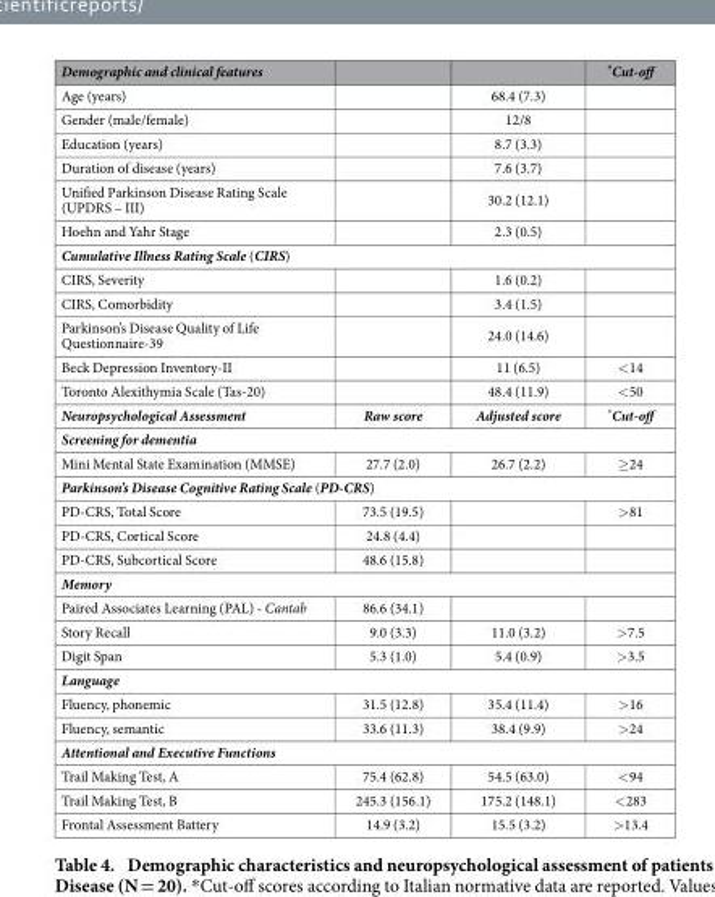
<table><thead><tr><td>Demographic and clinical features</td><td></td><td></td><td>*Cut-off</td></tr></thead><tbody><tr><td>Age (years)</td><td></td><td>68.4 (7.3)</td><td></td></tr><tr><td>Gender (male/female)</td><td></td><td>12/8</td><td></td></tr><tr><td>Education (years)</td><td></td><td>8.7 (3.3)</td><td></td></tr><tr><td>Duration of disease (years)</td><td></td><td>7.6 (3.7)</td><td></td></tr><tr><td>Unified Parkinson Disease Rating Scale (UPDRS – III)</td><td></td><td>30.2 (12.1)</td><td></td></tr><tr><td>Hoehn and Yahr Stage</td><td></td><td>2.3 (0.5)</td><td></td></tr><tr><td colspan="4">Cumulative Illness Rating Scale (CIRS)</td></tr><tr><td>CIRS, Severity</td><td></td><td>1.6 (0.2)</td><td></td></tr><tr><td>CIRS, Comorbidity</td><td></td><td>3.4 (1.5)</td><td></td></tr><tr><td>Parkinson’s Disease Quality of Life Questionnaire-39</td><td></td><td>24.0 (14.6)</td><td></td></tr><tr><td>Beck Depression Inventory-II</td><td></td><td>11 (6.5)</td><td>&lt; 14</td></tr><tr><td>Toronto Alexithymia Scale (Tas-20)</td><td></td><td>48.4 (11.9)</td><td>&lt; 50</td></tr><tr><td>Neuropsychological Assessment</td><td>Raw score</td><td>Adjusted score</td><td>*Cut-off</td></tr><tr><td colspan="4">Screening for dementia</td></tr><tr><td>Mini Mental State Examination (MMSE)</td><td>27.7 (2.0)</td><td>26.7 (2.2)</td><td>≥ 24</td></tr><tr><td colspan="4">Parkinson’s Disease Cognitive Rating Scale (PD-CRS)</td></tr><tr><td>PD-CRS, Total Score</td><td>73.5 (19.5)</td><td></td><td>&gt; 81</td></tr><tr><td>PD-CRS, Cortical Score</td><td>24.8 (4.4)</td><td></td><td></td></tr><tr><td>PD-CRS, Subcortical Score</td><td>48.6 (15.8)</td><td></td><td></td></tr><tr><td colspan="4">Memory</td></tr><tr><td>Paired Associates Learning (PAL) - Cantab</td><td>86.6 (34.1)</td><td></td><td></td></tr><tr><td>Story Recall</td><td>9.0 (3.3)</td><td>11.0 (3.2)</td><td>&gt; 7.5</td></tr><tr><td>Digit Span</td><td>5.3 (1.0)</td><td>5.4 (0.9)</td><td>&gt; 3.5</td></tr><tr><td colspan="4">Language</td></tr><tr><td>Fluency, phonemic</td><td>31.5 (12.8)</td><td>35.4 (11.4)</td><td>&gt; 16</td></tr><tr><td>Fluency, semantic</td><td>33.6 (11.3)</td><td>38.4 (9.9)</td><td>&gt; 24</td></tr><tr><td colspan="4">Attentional and Executive Functions</td></tr><tr><td>Trail Making Test, A</td><td>75.4 (62.8)</td><td>54.5 (63.0)</td><td>&lt; 94</td></tr><tr><td>Trail Making Test, B</td><td>245.3 (156.1)</td><td>175.2 (148.1)</td><td>&lt; 283</td></tr><tr><td>Frontal Assessment Battery</td><td>14.9 (3.2)</td><td>15.5 (3.2)</td><td>&gt; 13.4</td></tr></tbody></table>